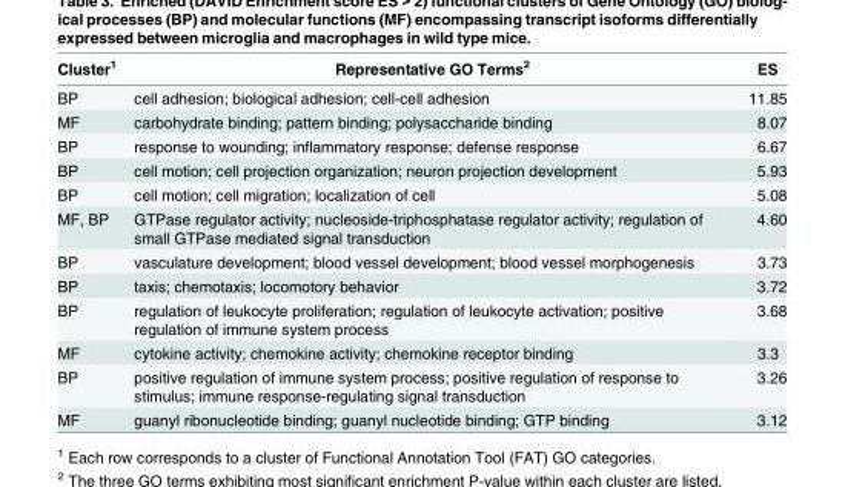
<table><thead><tr><td>Cluster<sup>1</sup></td><td>Representative GO Terms<sup>2</sup></td><td>ES</td></tr></thead><tbody><tr><td>BP</td><td>cell adhesion; biological adhesion; cell-cell adhesion</td><td>11.85</td></tr><tr><td>MF</td><td>carbohydrate binding; pattern binding; polysaccharide binding</td><td>8.07</td></tr><tr><td>BP</td><td>response to wounding; inflammatory response; defense response</td><td>6.67</td></tr><tr><td>BP</td><td>cell motion; cell projection organization; neuron projection development</td><td>5.93</td></tr><tr><td>BP</td><td>cell motion; cell migration; localization of cell</td><td>5.08</td></tr><tr><td>MF, BP</td><td>GTPase regulator activity; nucleoside-triphosphatase regulator activity; regulation of small GTPase mediated signal transduction</td><td>4.60</td></tr><tr><td>BP</td><td>vasculature development; blood vessel development; blood vessel morphogenesis</td><td>3.73</td></tr><tr><td>BP</td><td>taxis; chemotaxis; locomotory behavior</td><td>3.72</td></tr><tr><td>BP</td><td>regulation of leukocyte proliferation; regulation of leukocyte activation; positive regulation of immune system process</td><td>3.68</td></tr><tr><td>MF</td><td>cytokine activity; chemokine activity; chemokine receptor binding</td><td>3.3</td></tr><tr><td>BP</td><td>positive regulation of immune system process; positive regulation of response to stimulus; immune response-regulating signal transduction</td><td>3.26</td></tr><tr><td>MF</td><td>guanyl ribonucleotide binding; guanyl nucleotide binding; GTP binding</td><td>3.12</td></tr></tbody></table>